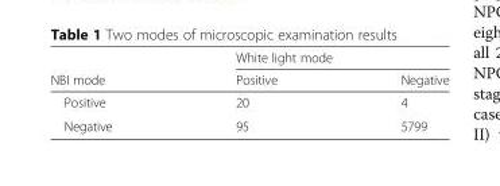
<table><thead><tr><td rowspan="2">NBI mode</td><td colspan="2">White light mode</td></tr><tr><td>Positive</td><td>Negative</td></tr></thead><tbody><tr><td>Positive</td><td>20</td><td>4</td></tr><tr><td>Negative</td><td>95</td><td>5799</td></tr></tbody></table>